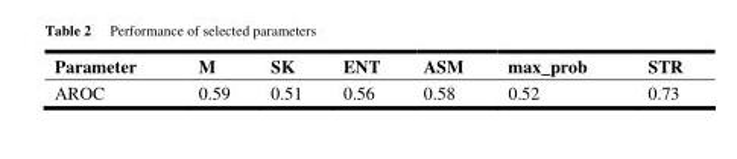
<table><thead><tr><td>Parameter</td><td>M</td><td>SK</td><td>ENT</td><td>ASM</td><td>max_prob</td><td>STR</td></tr></thead><tbody><tr><td>AROC</td><td>0.59</td><td>0.51</td><td>0.56</td><td>0.58</td><td>0.52</td><td>0.73</td></tr></tbody></table>